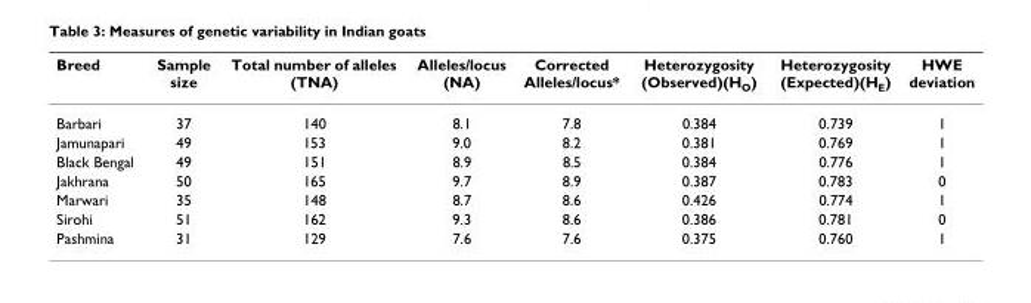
<table><thead><tr><td>Breed</td><td>Sample size</td><td>Total number of alleles (TNA)</td><td>Alleles/locus (NA)</td><td>Corrected Alleles/locus*</td><td>Heterozygosity (Observed)(H<sub>O</sub>)</td><td>Heterozygosity (Expected)(H<sub>E</sub>)</td><td>HWE deviation</td></tr></thead><tbody><tr><td>Barbari</td><td>37</td><td>140</td><td>8.1</td><td>7.8</td><td>0.384</td><td>0.739</td><td>1</td></tr><tr><td>Jamunapari</td><td>49</td><td>153</td><td>9.0</td><td>8.2</td><td>0.381</td><td>0.769</td><td>1</td></tr><tr><td>Black Bengal</td><td>49</td><td>151</td><td>8.9</td><td>8.5</td><td>0.384</td><td>0.776</td><td>1</td></tr><tr><td>Jakhrana</td><td>50</td><td>165</td><td>9.7</td><td>8.9</td><td>0.387</td><td>0.783</td><td>0</td></tr><tr><td>Marwari</td><td>35</td><td>148</td><td>8.7</td><td>8.6</td><td>0.426</td><td>0.774</td><td>1</td></tr><tr><td>Sirohi</td><td>51</td><td>162</td><td>9.3</td><td>8.6</td><td>0.386</td><td>0.781</td><td>0</td></tr><tr><td>Pashmina</td><td>31</td><td>129</td><td>7.6</td><td>7.6</td><td>0.375</td><td>0.760</td><td>1</td></tr></tbody></table>